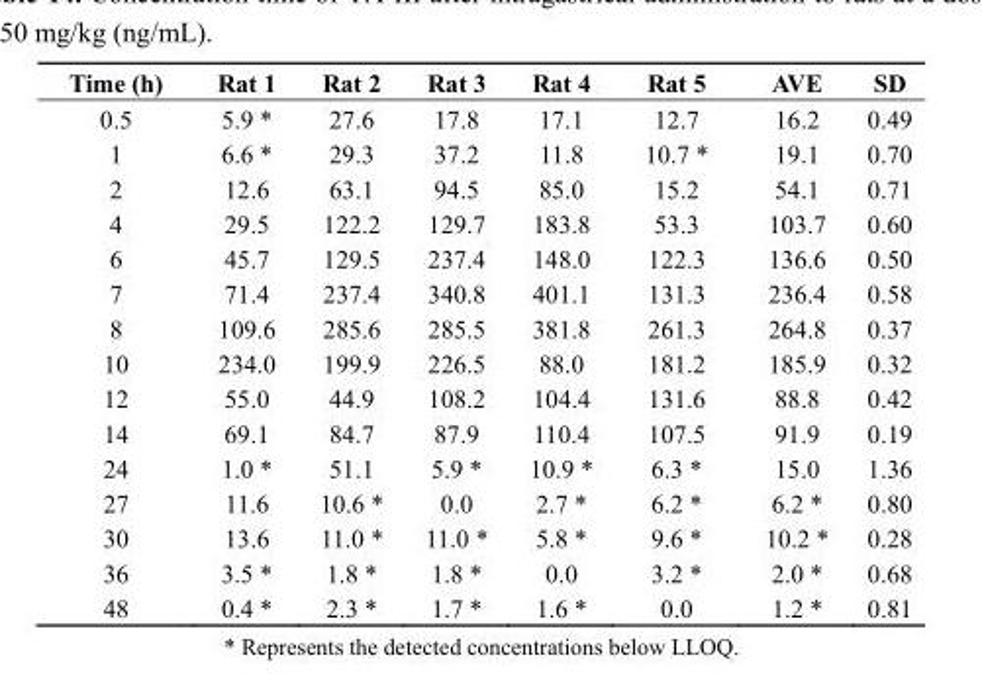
<table><thead><tr><td>Time (h)</td><td>Rat 1</td><td>Rat 2</td><td>Rat 3</td><td>Rat 4</td><td>Rat 5</td><td>AVE</td><td>SD</td></tr></thead><tbody><tr><td>0.5</td><td>5.9 *</td><td>27.6</td><td>17.8</td><td>17.1</td><td>12.7</td><td>16.2</td><td>0.49</td></tr><tr><td>1</td><td>6.6 *</td><td>29.3</td><td>37.2</td><td>11.8</td><td>10.7 *</td><td>19.1</td><td>0.70</td></tr><tr><td>2</td><td>12.6</td><td>63.1</td><td>94.5</td><td>85.0</td><td>15.2</td><td>54.1</td><td>0.71</td></tr><tr><td>4</td><td>29.5</td><td>122.2</td><td>129.7</td><td>183.8</td><td>53.3</td><td>103.7</td><td>0.60</td></tr><tr><td>6</td><td>45.7</td><td>129.5</td><td>237.4</td><td>148.0</td><td>122.3</td><td>136.6</td><td>0.50</td></tr><tr><td>7</td><td>71.4</td><td>237.4</td><td>340.8</td><td>401.1</td><td>131.3</td><td>236.4</td><td>0.58</td></tr><tr><td>8</td><td>109.6</td><td>285.6</td><td>285.5</td><td>381.8</td><td>261.3</td><td>264.8</td><td>0.37</td></tr><tr><td>10</td><td>234.0</td><td>199.9</td><td>226.5</td><td>88.0</td><td>181.2</td><td>185.9</td><td>0.32</td></tr><tr><td>12</td><td>55.0</td><td>44.9</td><td>108.2</td><td>104.4</td><td>131.6</td><td>88.8</td><td>0.42</td></tr><tr><td>14</td><td>69.1</td><td>84.7</td><td>87.9</td><td>110.4</td><td>107.5</td><td>91.9</td><td>0.19</td></tr><tr><td>24</td><td>1.0 *</td><td>51.1</td><td>5.9 *</td><td>10.9 *</td><td>6.3 *</td><td>15.0</td><td>1.36</td></tr><tr><td>27</td><td>11.6</td><td>10.6 *</td><td>0.0</td><td>2.7 *</td><td>6.2 *</td><td>6.2 *</td><td>0.80</td></tr><tr><td>30</td><td>13.6</td><td>11.0 *</td><td>11.0 *</td><td>5.8 *</td><td>9.6 *</td><td>10.2 *</td><td>0.28</td></tr><tr><td>36</td><td>3.5 *</td><td>1.8 *</td><td>1.8 *</td><td>0.0</td><td>3.2 *</td><td>2.0 *</td><td>0.68</td></tr><tr><td>48</td><td>0.4 *</td><td>2.3 *</td><td>1.7 *</td><td>1.6 *</td><td>0.0</td><td>1.2 *</td><td>0.81</td></tr></tbody></table>